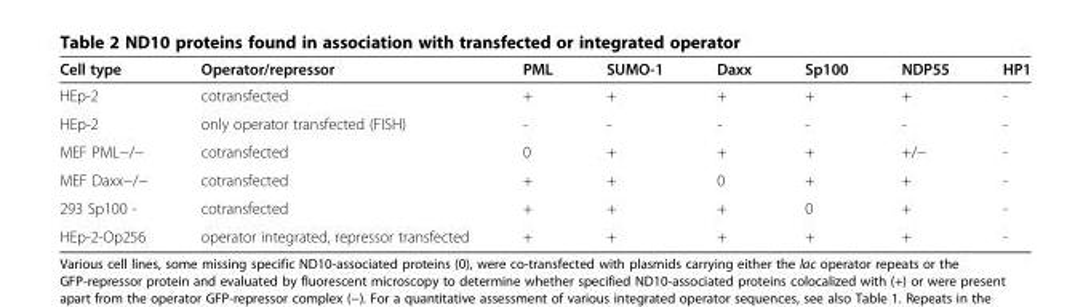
<table><thead><tr><td>Cell type</td><td>Operator/repressor</td><td>PML</td><td>SUMO-1</td><td>Daxx</td><td>Sp100</td><td>NDP55</td><td>HP1</td></tr></thead><tbody><tr><td>HEp-2</td><td>cotransfected</td><td>+</td><td>+</td><td>+</td><td>+</td><td>+</td><td>-</td></tr><tr><td>HEp-2</td><td>only operator transfected (FISH)</td><td>-</td><td>-</td><td>-</td><td>-</td><td>-</td><td>-</td></tr><tr><td>MEF PML−/−</td><td>cotransfected</td><td>0</td><td>+</td><td>+</td><td>+</td><td>+/−</td><td>-</td></tr><tr><td>MEF Daxx−/−</td><td>cotransfected</td><td>+</td><td>+</td><td>0</td><td>+</td><td>+</td><td>-</td></tr><tr><td>293 Sp100 -</td><td>cotransfected</td><td>+</td><td>+</td><td>+</td><td>0</td><td>+</td><td>-</td></tr><tr><td>HEp-2-Op256</td><td>operator integrated, repressor transfected</td><td>+</td><td>+</td><td>+</td><td>+</td><td>+</td><td>-</td></tr></tbody></table>